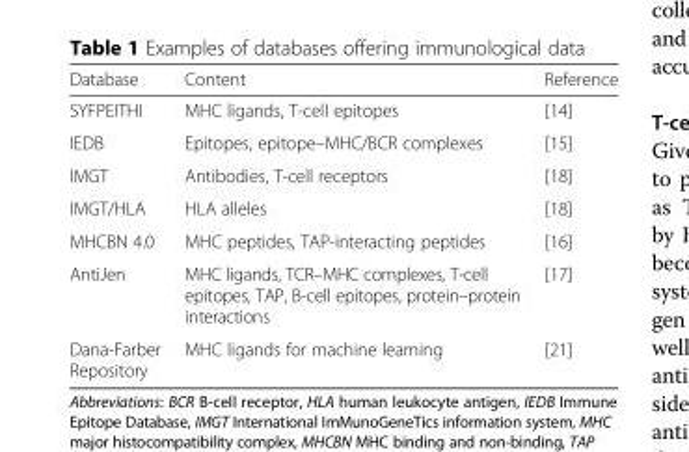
<table><thead><tr><td>Database</td><td>Content</td><td>Reference</td></tr></thead><tbody><tr><td>SYFPEITHI</td><td>MHC ligands, T-cell epitopes</td><td>[14]</td></tr><tr><td>IEDB</td><td>Epitopes, epitope–MHC/BCR complexes</td><td>[15]</td></tr><tr><td>IMGT</td><td>Antibodies, T-cell receptors</td><td>[18]</td></tr><tr><td>IMGT/HLA</td><td>HLA alleles</td><td>[18]</td></tr><tr><td>MHCBN 4.0</td><td>MHC peptides, TAP-interacting peptides</td><td>[16]</td></tr><tr><td>AntiJen</td><td>MHC ligands, TCR–MHC complexes, T-cell epitopes, TAP, B-cell epitopes, protein–protein interactions</td><td>[17]</td></tr><tr><td>Dana-Farber Repository</td><td>MHC ligands for machine learning</td><td>[21]</td></tr></tbody></table>